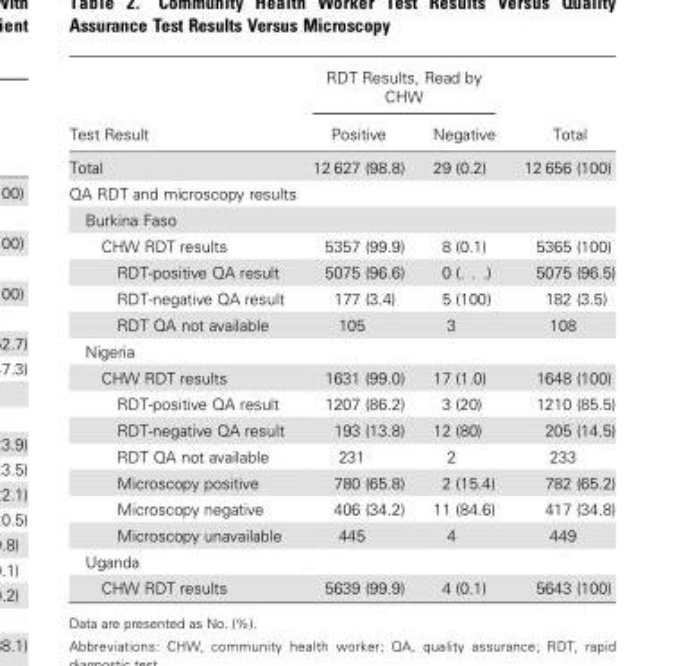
<table><thead><tr><td rowspan="2">Test Result</td><td colspan="2">RDT Results, Read by CHW</td><td rowspan="2">Total</td></tr><tr><td>Positive</td><td>Negative</td></tr></thead><tbody><tr><td>Total</td><td>12 627 (98.8)</td><td>29 (0.2)</td><td>12 656 (100)</td></tr><tr><td colspan="4">QA RDT and microscopy results</td></tr><tr><td colspan="4">Burkina Faso</td></tr><tr><td>CHW RDT results</td><td>5357 (99.9)</td><td>8 (0.1)</td><td>5365 (100)</td></tr><tr><td>RDT-positive QA result</td><td>5075 (96.6)</td><td>0 (. . .)</td><td>5075 (96.5)</td></tr><tr><td>RDT-negative QA result</td><td>177 (3.4)</td><td>5 (100)</td><td>182 (3.5)</td></tr><tr><td>RDT QA not available</td><td>105</td><td>3</td><td>108</td></tr><tr><td colspan="4">Nigeria</td></tr><tr><td>CHW RDT results</td><td>1631 (99.0)</td><td>17 (1.0)</td><td>1648 (100)</td></tr><tr><td>RDT-positive QA result</td><td>1207 (86.2)</td><td>3 (20)</td><td>1210 (85.5)</td></tr><tr><td>RDT-negative QA result</td><td>193 (13.8)</td><td>12 (80)</td><td>205 (14.5)</td></tr><tr><td>RDT QA not available</td><td>231</td><td>2</td><td>233</td></tr><tr><td>Microscopy positive</td><td>780 (65.8)</td><td>2 (15.4)</td><td>782 (65.2)</td></tr><tr><td>Microscopy negative</td><td>406 (34.2)</td><td>11 (84.6)</td><td>417 (34.8)</td></tr><tr><td>Microscopy unavailable</td><td>445</td><td>4</td><td>449</td></tr><tr><td colspan="4">Uganda</td></tr><tr><td>CHW RDT results</td><td>5639 (99.9)</td><td>4 (0.1)</td><td>5643 (100)</td></tr></tbody></table>